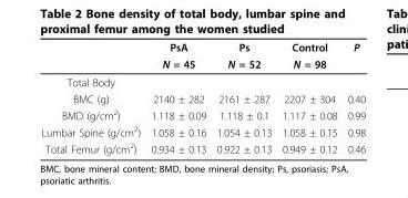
<table><thead><tr><td rowspan="2"></td><td rowspan="2">PsA N = 45</td><td rowspan="2">Ps N = 52</td><td rowspan="2">Control N = 98</td><td rowspan="2">P</td></tr><tr></tr></thead><tbody><tr><td colspan="5">Total Body</td></tr><tr><td>BMC (g)</td><td>2140 ± 282</td><td>2161 ± 287</td><td>2207 ± 304</td><td>0.40</td></tr><tr><td>BMD (g/cm<sup>2</sup>)</td><td>1.118 ± 0.09</td><td>1.118 ± 0.1</td><td>1.117 ± 0.08</td><td>0.99</td></tr><tr><td>Lumbar Spine (g/cm<sup>2</sup>)</td><td>1.058 ± 0.16</td><td>1.054 ± 0.13</td><td>1.058 ± 0.15</td><td>0.98</td></tr><tr><td>Total Femur (g/cm<sup>2</sup>)</td><td>0.934 ± 0.13</td><td>0.922 ± 0.13</td><td>0.949 ± 0.12</td><td>0.46</td></tr></tbody></table>